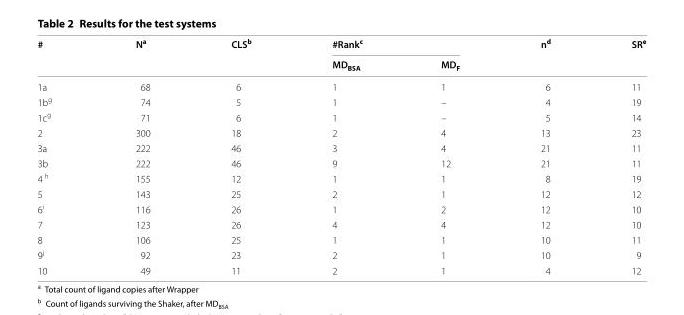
<table><thead><tr><td rowspan="2">#</td><td rowspan="2">N<sup>a</sup></td><td rowspan="2">CLS<sup>b</sup></td><td colspan="2">#Rank<sup>c</sup></td><td rowspan="2">n<sup>d</sup></td><td rowspan="2">SR<sup>e</sup></td></tr><tr><td>MD<sub>BSA</sub></td><td>MD<sub>F</sub></td></tr></thead><tbody><tr><td>1a</td><td>68</td><td>6</td><td>1</td><td>1</td><td>6</td><td>11</td></tr><tr><td>1b<sup>g</sup></td><td>74</td><td>5</td><td>1</td><td>–</td><td>4</td><td>19</td></tr><tr><td>1c<sup>g</sup></td><td>71</td><td>6</td><td>1</td><td>–</td><td>5</td><td>14</td></tr><tr><td>2</td><td>300</td><td>18</td><td>2</td><td>4</td><td>13</td><td>23</td></tr><tr><td>3a</td><td>222</td><td>46</td><td>3</td><td>4</td><td>21</td><td>11</td></tr><tr><td>3b</td><td>222</td><td>46</td><td>9</td><td>12</td><td>21</td><td>11</td></tr><tr><td>4 <sup>h</sup></td><td>155</td><td>12</td><td>1</td><td>1</td><td>8</td><td>19</td></tr><tr><td>5</td><td>143</td><td>25</td><td>2</td><td>1</td><td>12</td><td>12</td></tr><tr><td>6<sup>i</sup></td><td>116</td><td>26</td><td>1</td><td>2</td><td>12</td><td>10</td></tr><tr><td>7</td><td>123</td><td>26</td><td>4</td><td>4</td><td>12</td><td>10</td></tr><tr><td>8</td><td>106</td><td>25</td><td>1</td><td>1</td><td>10</td><td>11</td></tr><tr><td>9<sup>j</sup></td><td>92</td><td>23</td><td>2</td><td>1</td><td>10</td><td>9</td></tr><tr><td>10</td><td>49</td><td>11</td><td>2</td><td>1</td><td>4</td><td>12</td></tr></tbody></table>